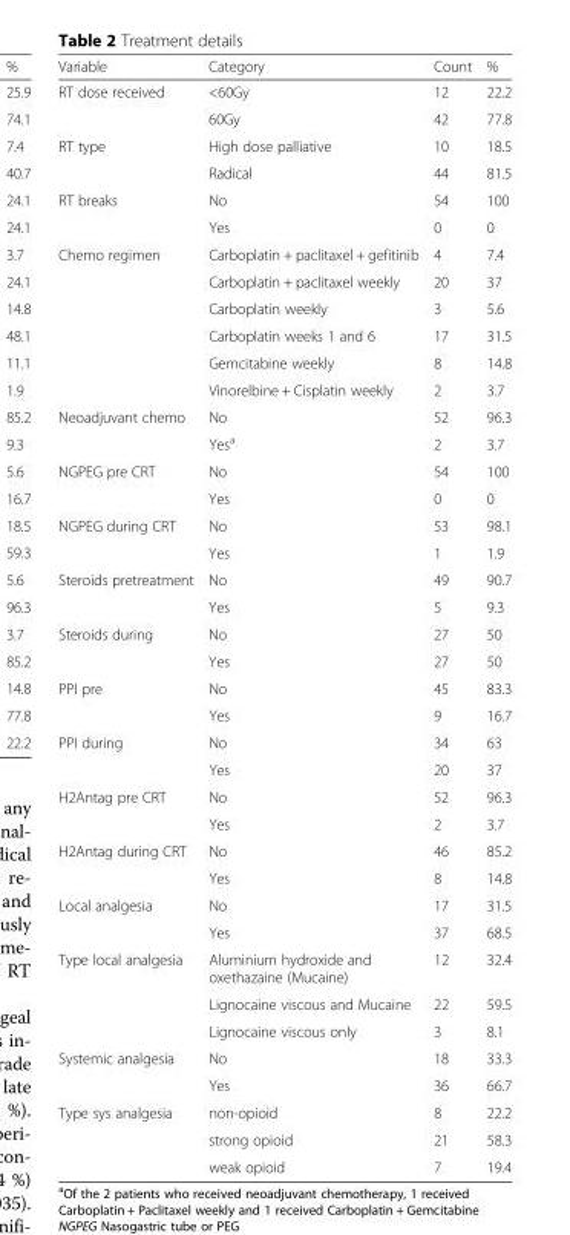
<table><thead><tr><td>Variable</td><td>Category</td><td>Count</td><td>%</td></tr></thead><tbody><tr><td rowspan="2">RT dose received</td><td>&lt;60Gy</td><td>12</td><td>22.2</td></tr><tr><td>60Gy</td><td>42</td><td>77.8</td></tr><tr><td rowspan="2">RT type</td><td>High dose palliative</td><td>10</td><td>18.5</td></tr><tr><td>Radical</td><td>44</td><td>81.5</td></tr><tr><td rowspan="2">RT breaks</td><td>No</td><td>54</td><td>100</td></tr><tr><td>Yes</td><td>0</td><td>0</td></tr><tr><td rowspan="6">Chemo regimen</td><td>Carboplatin + paclitaxel + gefitinib</td><td>4</td><td>7.4</td></tr><tr><td>Carboplatin + paclitaxel weekly</td><td>20</td><td>37</td></tr><tr><td>Carboplatin weekly</td><td>3</td><td>5.6</td></tr><tr><td>Carboplatin weeks 1 and 6</td><td>17</td><td>31.5</td></tr><tr><td>Gemcitabine weekly</td><td>8</td><td>14.8</td></tr><tr><td>Vinorelbine + Cisplatin weekly</td><td>2</td><td>3.7</td></tr><tr><td rowspan="2">Neoadjuvant chemo</td><td>No</td><td>52</td><td>96.3</td></tr><tr><td>Yes<sup>a</sup></td><td>2</td><td>3.7</td></tr><tr><td rowspan="2">NGPEG pre CRT</td><td>No</td><td>54</td><td>100</td></tr><tr><td>Yes</td><td>0</td><td>0</td></tr><tr><td rowspan="2">NGPEG during CRT</td><td>No</td><td>53</td><td>98.1</td></tr><tr><td>Yes</td><td>1</td><td>1.9</td></tr><tr><td rowspan="2">Steroids pretreatment</td><td>No</td><td>49</td><td>90.7</td></tr><tr><td>Yes</td><td>5</td><td>9.3</td></tr><tr><td rowspan="2">Steroids during</td><td>No</td><td>27</td><td>50</td></tr><tr><td>Yes</td><td>27</td><td>50</td></tr><tr><td rowspan="2">PPI pre</td><td>No</td><td>45</td><td>83.3</td></tr><tr><td>Yes</td><td>9</td><td>16.7</td></tr><tr><td rowspan="2">PPI during</td><td>No</td><td>34</td><td>63</td></tr><tr><td>Yes</td><td>20</td><td>37</td></tr><tr><td rowspan="2">H2Antag pre CRT</td><td>No</td><td>52</td><td>96.3</td></tr><tr><td>Yes</td><td>2</td><td>3.7</td></tr><tr><td rowspan="2">H2Antag during CRT</td><td>No</td><td>46</td><td>85.2</td></tr><tr><td>Yes</td><td>8</td><td>14.8</td></tr><tr><td rowspan="2">Local analgesia</td><td>No</td><td>17</td><td>31.5</td></tr><tr><td>Yes</td><td>37</td><td>68.5</td></tr><tr><td rowspan="3">Type local analgesia</td><td>Aluminium hydroxide and oxethazaine (Mucaine)</td><td>12</td><td>32.4</td></tr><tr><td>Lignocaine viscous and Mucaine</td><td>22</td><td>59.5</td></tr><tr><td>Lignocaine viscous only</td><td>3</td><td>8.1</td></tr><tr><td rowspan="2">Systemic analgesia</td><td>No</td><td>18</td><td>33.3</td></tr><tr><td>Yes</td><td>36</td><td>66.7</td></tr><tr><td rowspan="3">Type sys analgesia</td><td>non-opioid</td><td>8</td><td>22.2</td></tr><tr><td>strong opioid</td><td>21</td><td>58.3</td></tr><tr><td>weak opioid</td><td>7</td><td>19.4</td></tr></tbody></table>